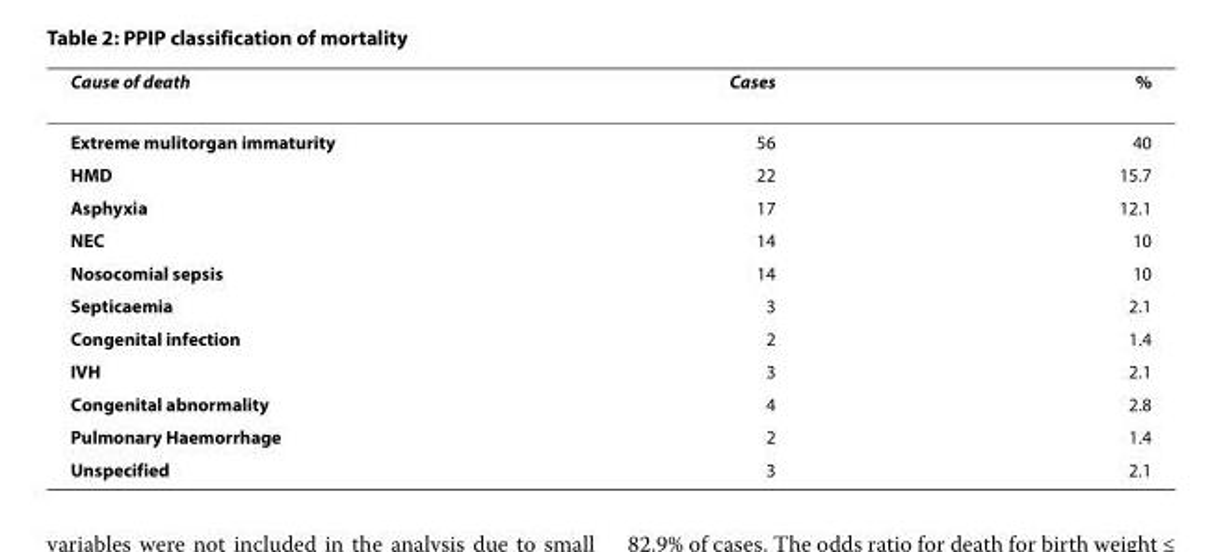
<table><thead><tr><td>Cause of death</td><td>Cases</td><td>%</td></tr></thead><tbody><tr><td>Extreme mulitorgan immaturity</td><td>56</td><td>40</td></tr><tr><td>HMD</td><td>22</td><td>15.7</td></tr><tr><td>Asphyxia</td><td>17</td><td>12.1</td></tr><tr><td>NEC</td><td>14</td><td>10</td></tr><tr><td>Nosocomial sepsis</td><td>14</td><td>10</td></tr><tr><td>Septicaemia</td><td>3</td><td>2.1</td></tr><tr><td>Congenital infection</td><td>2</td><td>1.4</td></tr><tr><td>IVH</td><td>3</td><td>2.1</td></tr><tr><td>Congenital abnormality</td><td>4</td><td>2.8</td></tr><tr><td>Pulmonary Haemorrhage</td><td>2</td><td>1.4</td></tr><tr><td>Unspecified</td><td>3</td><td>2.1</td></tr></tbody></table>